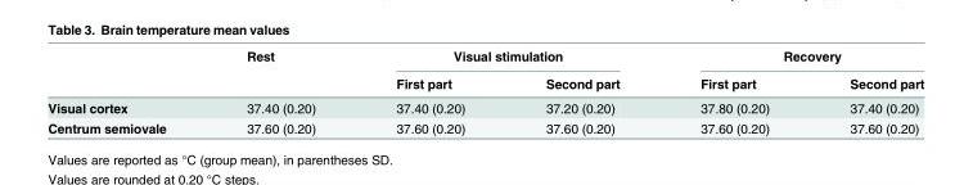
<table><thead><tr><td rowspan="2"></td><td rowspan="2">Rest</td><td colspan="2">Visual stimulation</td><td colspan="2">Recovery</td></tr><tr><td>First part</td><td>Second part</td><td>First part</td><td>Second part</td></tr></thead><tbody><tr><td>Visual cortex</td><td>37.40 (0.20)</td><td>37.40 (0.20)</td><td>37.20 (0.20)</td><td>37.80 (0.20)</td><td>37.40 (0.20)</td></tr><tr><td>Centrum semiovale</td><td>37.60 (0.20)</td><td>37.60 (0.20)</td><td>37.60 (0.20)</td><td>37.60 (0.20)</td><td>37.60 (0.20)</td></tr></tbody></table>